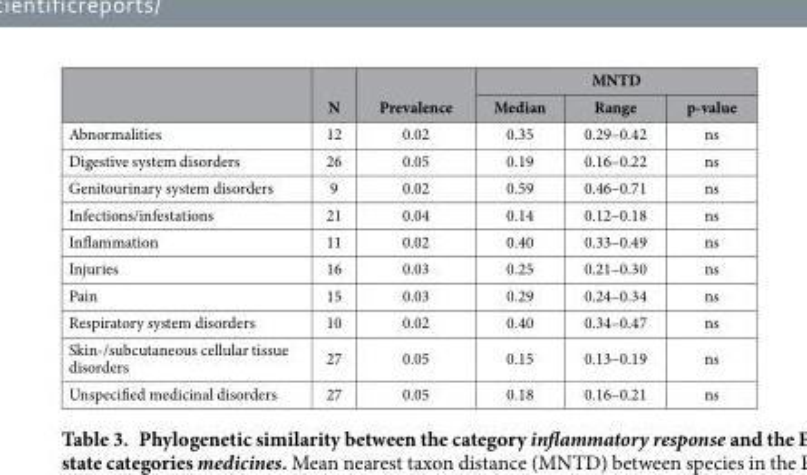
<table><thead><tr><td rowspan="2"></td><td rowspan="2">N</td><td rowspan="2">Prevalence</td><td colspan="3">MNTD</td></tr><tr><td>Median</td><td>Range</td><td>p-value</td></tr></thead><tbody><tr><td>Abnormalities</td><td>12</td><td>0.02</td><td>0.35</td><td>0.29–0.42</td><td>ns</td></tr><tr><td>Digestive system disorders</td><td>26</td><td>0.05</td><td>0.19</td><td>0.16–0.22</td><td>ns</td></tr><tr><td>Genitourinary system disorders</td><td>9</td><td>0.02</td><td>0.59</td><td>0.46–0.71</td><td>ns</td></tr><tr><td>Infections/infestations</td><td>21</td><td>0.04</td><td>0.14</td><td>0.12–0.18</td><td>ns</td></tr><tr><td>Inflammation</td><td>11</td><td>0.02</td><td>0.40</td><td>0.33–0.49</td><td>ns</td></tr><tr><td>Injuries</td><td>16</td><td>0.03</td><td>0.25</td><td>0.21–0.30</td><td>ns</td></tr><tr><td>Pain</td><td>15</td><td>0.03</td><td>0.29</td><td>0.24–0.34</td><td>ns</td></tr><tr><td>Respiratory system disorders</td><td>10</td><td>0.02</td><td>0.40</td><td>0.34–0.47</td><td>ns</td></tr><tr><td>Skin-/subcutaneous cellular tissue disorders</td><td>27</td><td>0.05</td><td>0.15</td><td>0.13–0.19</td><td>ns</td></tr><tr><td>Unspecified medicinal disorders</td><td>27</td><td>0.05</td><td>0.18</td><td>0.16–0.21</td><td>ns</td></tr></tbody></table>